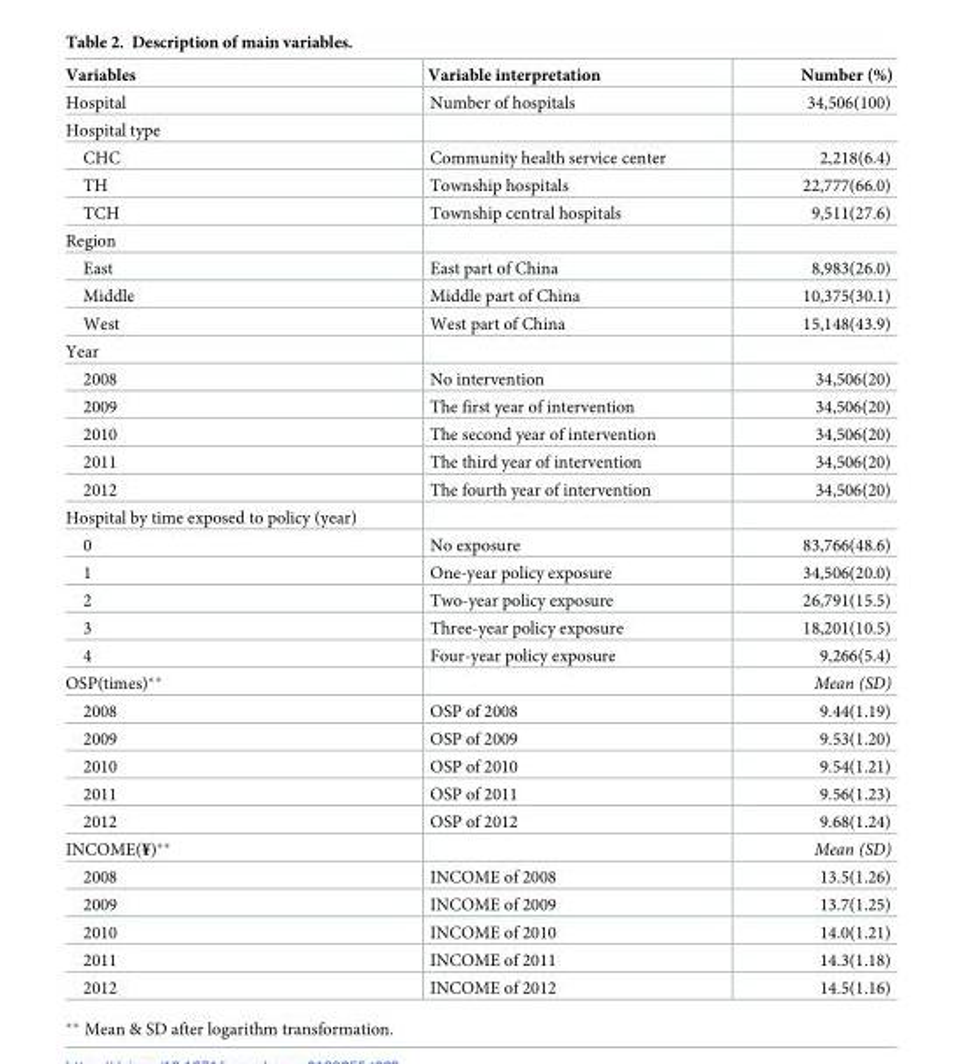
<table><thead><tr><td>Variables</td><td>Variable interpretation</td><td>Number (%)</td></tr></thead><tbody><tr><td>Hospital</td><td>Number of hospitals</td><td>34,506(100)</td></tr><tr><td colspan="3">Hospital type</td></tr><tr><td>CHC</td><td>Community health service center</td><td>2,218(6.4)</td></tr><tr><td>TH</td><td>Township hospitals</td><td>22,777(66.0)</td></tr><tr><td>TCH</td><td>Township central hospitals</td><td>9,511(27.6)</td></tr><tr><td colspan="3">Region</td></tr><tr><td>East</td><td>East part of China</td><td>8,983(26.0)</td></tr><tr><td>Middle</td><td>Middle part of China</td><td>10,375(30.1)</td></tr><tr><td>West</td><td>West part of China</td><td>15,148(43.9)</td></tr><tr><td colspan="3">Year</td></tr><tr><td>2008</td><td>No intervention</td><td>34,506(20)</td></tr><tr><td>2009</td><td>The first year of intervention</td><td>34,506(20)</td></tr><tr><td>2010</td><td>The second year of intervention</td><td>34,506(20)</td></tr><tr><td>2011</td><td>The third year of intervention</td><td>34,506(20)</td></tr><tr><td>2012</td><td>The fourth year of intervention</td><td>34,506(20)</td></tr><tr><td colspan="3">Hospital by time exposed to policy (year)</td></tr><tr><td>0</td><td>No exposure</td><td>83,766(48.6)</td></tr><tr><td>1</td><td>One-year policy exposure</td><td>34,506(20.0)</td></tr><tr><td>2</td><td>Two-year policy exposure</td><td>26,791(15.5)</td></tr><tr><td>3</td><td>Three-year policy exposure</td><td>18,201(10.5)</td></tr><tr><td>4</td><td>Four-year policy exposure</td><td>9,266(5.4)</td></tr><tr><td>OSP(times)**</td><td></td><td>Mean (SD)</td></tr><tr><td>2008</td><td>OSP of 2008</td><td>9.44(1.19)</td></tr><tr><td>2009</td><td>OSP of 2009</td><td>9.53(1.20)</td></tr><tr><td>2010</td><td>OSP of 2010</td><td>9.54(1.21)</td></tr><tr><td>2011</td><td>OSP of 2011</td><td>9.56(1.23)</td></tr><tr><td>2012</td><td>OSP of 2012</td><td>9.68(1.24)</td></tr><tr><td>INCOME(¥)**</td><td></td><td>Mean (SD)</td></tr><tr><td>2008</td><td>INCOME of 2008</td><td>13.5(1.26)</td></tr><tr><td>2009</td><td>INCOME of 2009</td><td>13.7(1.25)</td></tr><tr><td>2010</td><td>INCOME of 2010</td><td>14.0(1.21)</td></tr><tr><td>2011</td><td>INCOME of 2011</td><td>14.3(1.18)</td></tr><tr><td>2012</td><td>INCOME of 2012</td><td>14.5(1.16)</td></tr></tbody></table>